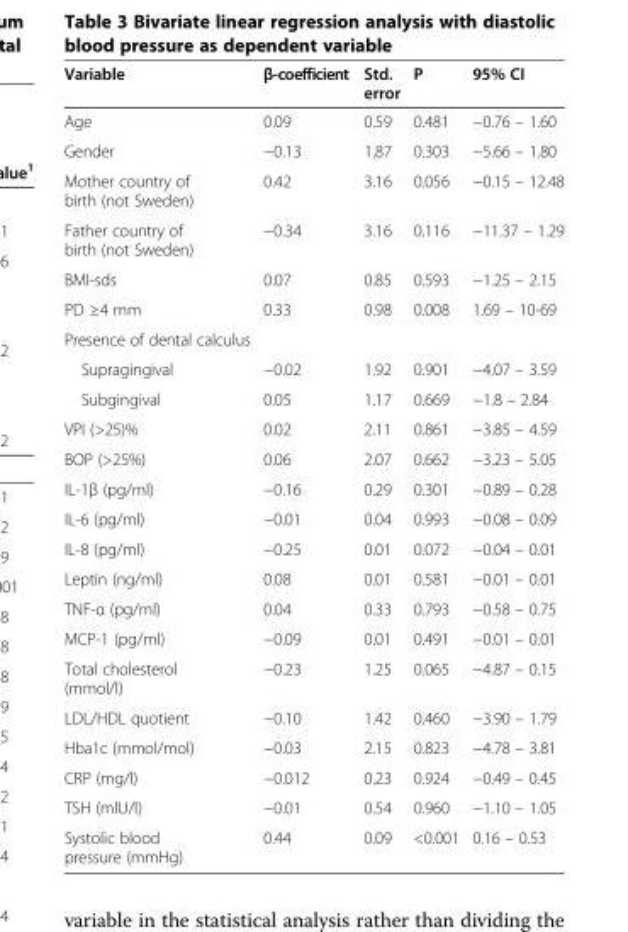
<table><thead><tr><td>Variable</td><td>β-coefficient</td><td>Std. error</td><td>P</td><td>95% CI</td></tr></thead><tbody><tr><td>Age</td><td>0.09</td><td>0.59</td><td>0.481</td><td>−0.76 – 1.60</td></tr><tr><td>Gender</td><td>−0.13</td><td>1.87</td><td>0.303</td><td>−5.66 – 1.80</td></tr><tr><td>Mother country of birth (not Sweden)</td><td>0.42</td><td>3.16</td><td>0.056</td><td>−0.15 – 12.48</td></tr><tr><td>Father country of birth (not Sweden)</td><td>−0.34</td><td>3.16</td><td>0.116</td><td>−11.37 – 1.29</td></tr><tr><td>BMI-sds</td><td>0.07</td><td>0.85</td><td>0.593</td><td>−1.25 – 2.15</td></tr><tr><td>PD ≥4 mm</td><td>0.33</td><td>0.98</td><td>0.008</td><td>1.69 – 10-69</td></tr><tr><td colspan="5">Presence of dental calculus</td></tr><tr><td>Supragingival</td><td>−0.02</td><td>1.92</td><td>0.901</td><td>−4.07 – 3.59</td></tr><tr><td>Subgingival</td><td>0.05</td><td>1.17</td><td>0.669</td><td>−1.8 – 2.84</td></tr><tr><td>VPI (&gt;25)%</td><td>0.02</td><td>2.11</td><td>0.861</td><td>−3.85 – 4.59</td></tr><tr><td>BOP (&gt;25%)</td><td>0.06</td><td>2.07</td><td>0.662</td><td>−3.23 – 5.05</td></tr><tr><td>IL-1β (pg/ml)</td><td>−0.16</td><td>0.29</td><td>0.301</td><td>−0.89 – 0.28</td></tr><tr><td>IL-6 (pg/ml)</td><td>−0.01</td><td>0.04</td><td>0.993</td><td>−0.08 – 0.09</td></tr><tr><td>IL-8 (pg/ml)</td><td>−0.25</td><td>0.01</td><td>0.072</td><td>−0.04 – 0.01</td></tr><tr><td>Leptin (ng/ml)</td><td>0.08</td><td>0.01</td><td>0.581</td><td>−0.01 – 0.01</td></tr><tr><td>TNF-α (pg/ml)</td><td>0.04</td><td>0.33</td><td>0.793</td><td>−0.58 – 0.75</td></tr><tr><td>MCP-1 (pg/ml)</td><td>−0.09</td><td>0.01</td><td>0.491</td><td>−0.01 – 0.01</td></tr><tr><td>Total cholesterol (mmol/l)</td><td>−0.23</td><td>1.25</td><td>0.065</td><td>−4.87 – 0.15</td></tr><tr><td>LDL/HDL quotient</td><td>−0.10</td><td>1.42</td><td>0.460</td><td>−3.90 – 1.79</td></tr><tr><td>Hba1c (mmol/mol)</td><td>−0.03</td><td>2.15</td><td>0.823</td><td>−4.78 – 3.81</td></tr><tr><td>CRP (mg/l)</td><td>−0.012</td><td>0.23</td><td>0.924</td><td>−0.49 – 0.45</td></tr><tr><td>TSH (mlU/l)</td><td>−0.01</td><td>0.54</td><td>0.960</td><td>−1.10 – 1.05</td></tr><tr><td>Systolic blood pressure (mmHg)</td><td>0.44</td><td>0.09</td><td>&lt;0.001</td><td>0.16 – 0.53</td></tr></tbody></table>